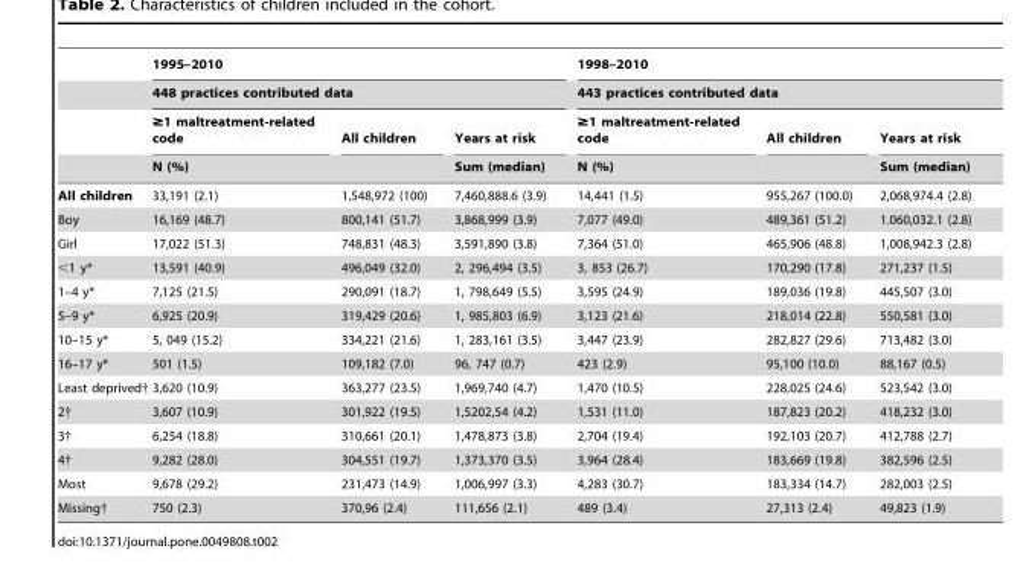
<table><thead><tr><td rowspan="4"></td><td rowspan="2" colspan="3">1995–2010 448 practices contributed data</td><td rowspan="2" colspan="3">1998–2010 443 practices contributed data</td></tr><tr></tr><tr><td>≥1 maltreatment-related code</td><td>All children</td><td rowspan="2">Years at risk Sum (median)</td><td>≥1 maltreatment-related code</td><td>All children</td><td rowspan="2">Years at risk Sum (median)</td></tr><tr><td colspan="2">N (%)</td><td colspan="2">N (%)</td></tr></thead><tbody><tr><td>All children</td><td>33,191 (2.1)</td><td>1,548,972 (100)</td><td>7,460,888.6 (3.9)</td><td>14,441 (1.5)</td><td>955,267 (100.0)</td><td>2,068,974.4 (2.8)</td></tr><tr><td>Boy</td><td>16,169 (48.7)</td><td>800,141 (51.7)</td><td>3,868,999 (3.9)</td><td>7,077 (49.0)</td><td>489,361 (51.2)</td><td>1.060,032.1 (2.8)</td></tr><tr><td>Girl</td><td>17,022 (51.3)</td><td>748,831 (48.3)</td><td>3,591,890 (3.8)</td><td>7,364 (51.0)</td><td>465,906 (48.8)</td><td>1,008,942.3 (2.8)</td></tr><tr><td>&lt;1 y*</td><td>13,591 (40.9)</td><td>496,049 (32.0)</td><td>2, 296,494 (3.5)</td><td>3, 853 (26.7)</td><td>170,290 (17.8)</td><td>271,237 (1.5)</td></tr><tr><td>1–4 y*</td><td>7,125 (21.5)</td><td>290,091 (18.7)</td><td>1, 798,649 (5.5)</td><td>3,595 (24.9)</td><td>189,036 (19.8)</td><td>445,507 (3.0)</td></tr><tr><td>5–9 y*</td><td>6,925 (20.9)</td><td>319,429 (20.6)</td><td>1, 985,803 (6.9)</td><td>3,123 (21.6)</td><td>218,014 (22.8)</td><td>550,581 (3.0)</td></tr><tr><td>10–15 y*</td><td>5, 049 (15.2)</td><td>334,221 (21.6)</td><td>1, 283,161 (3.5)</td><td>3,447 (23.9)</td><td>282,827 (29.6)</td><td>713,482 (3.0)</td></tr><tr><td>16–17 y*</td><td>501 (1.5)</td><td>109,182 (7.0)</td><td>96, 747 (0.7)</td><td>423 (2.9)</td><td>95,100 (10.0)</td><td>88,167 (0.5)</td></tr><tr><td>Least deprived†</td><td>3,620 (10.9)</td><td>363,277 (23.5)</td><td>1,969,740 (4.7)</td><td>1,470 (10.5)</td><td>228,025 (24.6)</td><td>523,542 (3.0)</td></tr><tr><td>2†</td><td>3,607 (10.9)</td><td>301,922 (19.5)</td><td>1,5202,54 (4.2)</td><td>1,531 (11.0)</td><td>187,823 (20.2)</td><td>418,232 (3.0)</td></tr><tr><td>3†</td><td>6,254 (18.8)</td><td>310,661 (20.1)</td><td>1,478,873 (3.8)</td><td>2,704 (19.4)</td><td>192,103 (20.7)</td><td>412,788 (2.7)</td></tr><tr><td>4†</td><td>9,282 (28.0)</td><td>304,551 (19.7)</td><td>1,373,370 (3.5)</td><td>3,964 (28.4)</td><td>183,669 (19.8)</td><td>382,596 (2.5)</td></tr><tr><td>Most</td><td>9,678 (29.2)</td><td>231,473 (14.9)</td><td>1,006,997 (3.3)</td><td>4,283 (30.7)</td><td>183,334 (14.7)</td><td>282,003 (2.5)</td></tr><tr><td>Missing†</td><td>750 (2.3)</td><td>370,96 (2.4)</td><td>111,656 (2.1)</td><td>489 (3.4)</td><td>27,313 (2.4)</td><td>49,823 (1.9)</td></tr></tbody></table>